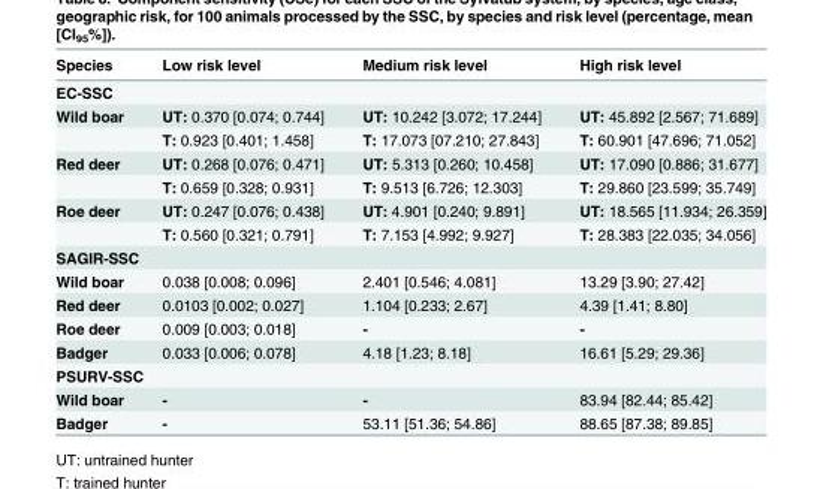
<table><thead><tr><td>Species</td><td>Low risk level</td><td>Medium risk level</td><td>High risk level</td></tr></thead><tbody><tr><td colspan="4">EC-SSC</td></tr><tr><td rowspan="2">Wild boar</td><td>UT: 0.370 [0.074; 0.744]</td><td>UT: 10.242 [3.072; 17.244]</td><td>UT: 45.892 [2.567; 71.689]</td></tr><tr><td>T: 0.923 [0.401; 1.458]</td><td>T: 17.073 [07.210; 27.843]</td><td>T: 60.901 [47.696; 71.052]</td></tr><tr><td rowspan="2">Red deer</td><td>UT: 0.268 [0.076; 0.471]</td><td>UT: 5.313 [0.260; 10.458]</td><td>UT: 17.090 [0.886; 31.677]</td></tr><tr><td>T: 0.659 [0.328; 0.931]</td><td>T: 9.513 [6.726; 12.303]</td><td>T: 29.860 [23.599; 35.749]</td></tr><tr><td rowspan="2">Roe deer</td><td>UT: 0.247 [0.076; 0.438]</td><td>UT: 4.901 [0.240; 9.891]</td><td>UT: 18.565 [11.934; 26.359]</td></tr><tr><td>T: 0.560 [0.321; 0.791]</td><td>T: 7.153 [4.992; 9.927]</td><td>T: 28.383 [22.035; 34.056]</td></tr><tr><td colspan="4">SAGIR-SSC</td></tr><tr><td>Wild boar</td><td>0.038 [0.008; 0.096]</td><td>2.401 [0.546; 4.081]</td><td>13.29 [3.90; 27.42]</td></tr><tr><td>Red deer</td><td>0.0103 [0.002; 0.027]</td><td>1.104 [0.233; 2.67]</td><td>4.39 [1.41; 8.80]</td></tr><tr><td>Roe deer</td><td>0.009 [0.003; 0.018]</td><td>-</td><td>-</td></tr><tr><td>Badger</td><td>0.033 [0.006; 0.078]</td><td>4.18 [1.23; 8.18]</td><td>16.61 [5.29; 29.36]</td></tr><tr><td colspan="4">PSURV-SSC</td></tr><tr><td>Wild boar</td><td>-</td><td>-</td><td>83.94 [82.44; 85.42]</td></tr><tr><td>Badger</td><td>-</td><td>53.11 [51.36; 54.86]</td><td>88.65 [87.38; 89.85]</td></tr></tbody></table>